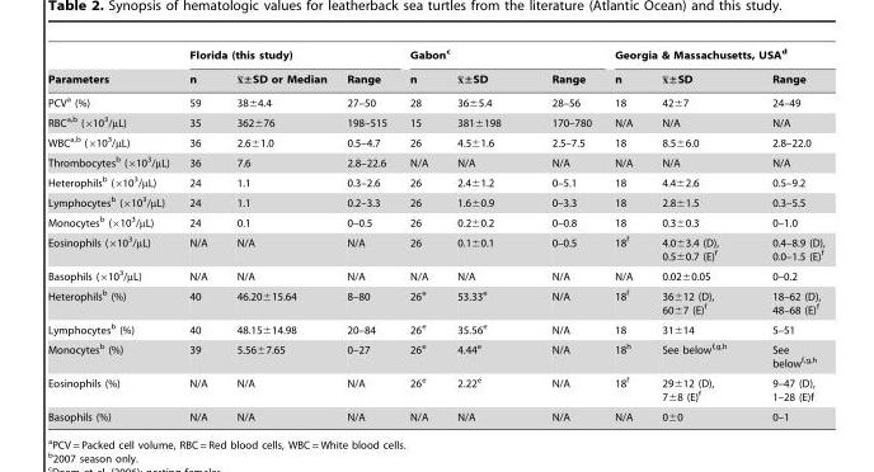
<table><thead><tr><td rowspan="2">Parameters</td><td colspan="3">Florida (this study)</td><td colspan="3">Gabon<sup>c</sup></td><td colspan="3">Georgia &amp; Massachusetts, USA<sup>d</sup></td></tr><tr><td>n</td><td>x±SD or Median</td><td>Range</td><td>n</td><td>x±SD</td><td>Range</td><td>n</td><td>x±SD</td><td>Range</td></tr></thead><tbody><tr><td>PCV<sup>a</sup> (%)</td><td>59</td><td>38±4.4</td><td>27–50</td><td>28</td><td>36±5.4</td><td>28–56</td><td>18</td><td>42±7</td><td>24–49</td></tr><tr><td>RBC<sup>a,</sup>b (×10<sup>3</sup>/µL)</td><td>35</td><td>362±76</td><td>198–515</td><td>15</td><td>381±198</td><td>170–780</td><td>N/A</td><td>N/A</td><td>N/A</td></tr><tr><td>WBC<sup>a,</sup>b (×10<sup>3</sup>/µL)</td><td>36</td><td>2.6±1.0</td><td>0.5–4.7</td><td>26</td><td>4.5±1.6</td><td>2.5–7.5</td><td>18</td><td>8.5±6.0</td><td>2.8–22.0</td></tr><tr><td>Thrombocytes<sup>b</sup> (×10<sup>3</sup>/µL)</td><td>36</td><td>7.6</td><td>2.8–22.6</td><td>N/A</td><td>N/A</td><td>N/A</td><td>N/A</td><td>N/A</td><td>N/A</td></tr><tr><td>Heterophils<sup>b</sup> (×10<sup>3</sup>/µL)</td><td>24</td><td>1.1</td><td>0.3–2.6</td><td>26</td><td>2.4±1.2</td><td>0–5.1</td><td>18</td><td>4.4±2.6</td><td>0.5–9.2</td></tr><tr><td>Lymphocytes<sup>b</sup> (×10<sup>3</sup>/µL)</td><td>24</td><td>1.1</td><td>0.2–3.3</td><td>26</td><td>1.6±0.9</td><td>0–3.3</td><td>18</td><td>2.8±1.5</td><td>0.3–5.5</td></tr><tr><td>Monocytes<sup>b</sup> (×10<sup>3</sup>/µL)</td><td>24</td><td>0.1</td><td>0–0.5</td><td>26</td><td>0.2±0.2</td><td>0–0.8</td><td>18</td><td>0.3±0.3</td><td>0–1.0</td></tr><tr><td>Eosinophils (×10<sup>3</sup>/µL)</td><td>N/A</td><td>N/A</td><td>N/A</td><td>26</td><td>0.1±0.1</td><td>0–0.5</td><td>18<sup>f</sup></td><td>4.0±3.4 (D), 0.5±0.7 (E)<sup>f</sup></td><td>0.4–8.9 (D), 0.0–1.5 (E)<sup>f</sup></td></tr><tr><td>Basophils (×10<sup>3</sup>/µL)</td><td>N/A</td><td>N/A</td><td>N/A</td><td>N/A</td><td>N/A</td><td>N/A</td><td>N/A</td><td>0.02±0.05</td><td>0–0.2</td></tr><tr><td>Heterophils<sup>b</sup> (%)</td><td>40</td><td>46.20±15.64</td><td>8–80</td><td>26<sup>e</sup></td><td>53.33<sup>e</sup></td><td>N/A</td><td>18<sup>f</sup></td><td>36±12 (D), 60±7 (E)<sup>f</sup></td><td>18–62 (D), 48–68 (E)<sup>f</sup></td></tr><tr><td>Lymphocytes<sup>b</sup> (%)</td><td>40</td><td>48.15±14.98</td><td>20–84</td><td>26<sup>e</sup></td><td>35.56<sup>e</sup></td><td>N/A</td><td>18</td><td>31±14</td><td>5–51</td></tr><tr><td>Monocytes<sup>b</sup> (%)</td><td>39</td><td>5.56±7.65</td><td>0–27</td><td>26<sup>e</sup></td><td>4.44<sup>e</sup></td><td>N/A</td><td>18<sup>h</sup></td><td>See below<sup>f,</sup>g<sup>,</sup>h</td><td>See below<sup>f,</sup>g<sup>,</sup>h</td></tr><tr><td>Eosinophils (%)</td><td>N/A</td><td>N/A</td><td>N/A</td><td>26<sup>e</sup></td><td>2.22<sup>e</sup></td><td>N/A</td><td>18<sup>f</sup></td><td>29±12 (D), 7±8 (E)<sup>f</sup></td><td>9–47 (D), 1–28 (E)f</td></tr><tr><td>Basophils (%)</td><td>N/A</td><td>N/A</td><td>N/A</td><td>N/A</td><td>N/A</td><td>N/A</td><td>N/A</td><td>0±0</td><td>0–1</td></tr></tbody></table>